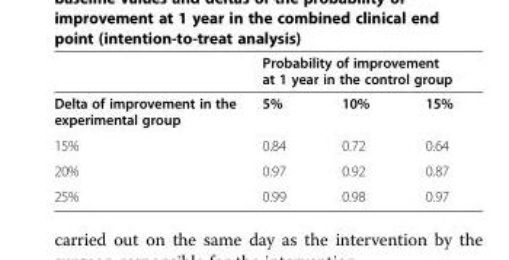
<table><thead><tr><td rowspan="2">Delta of improvement in the experimental group</td><td colspan="3">Probability of improvement at 1 year in the control group</td></tr><tr><td>5%</td><td>10%</td><td>15%</td></tr></thead><tbody><tr><td>15%</td><td>0.84</td><td>0.72</td><td>0.64</td></tr><tr><td>20%</td><td>0.97</td><td>0.92</td><td>0.87</td></tr><tr><td>25%</td><td>0.99</td><td>0.98</td><td>0.97</td></tr></tbody></table>